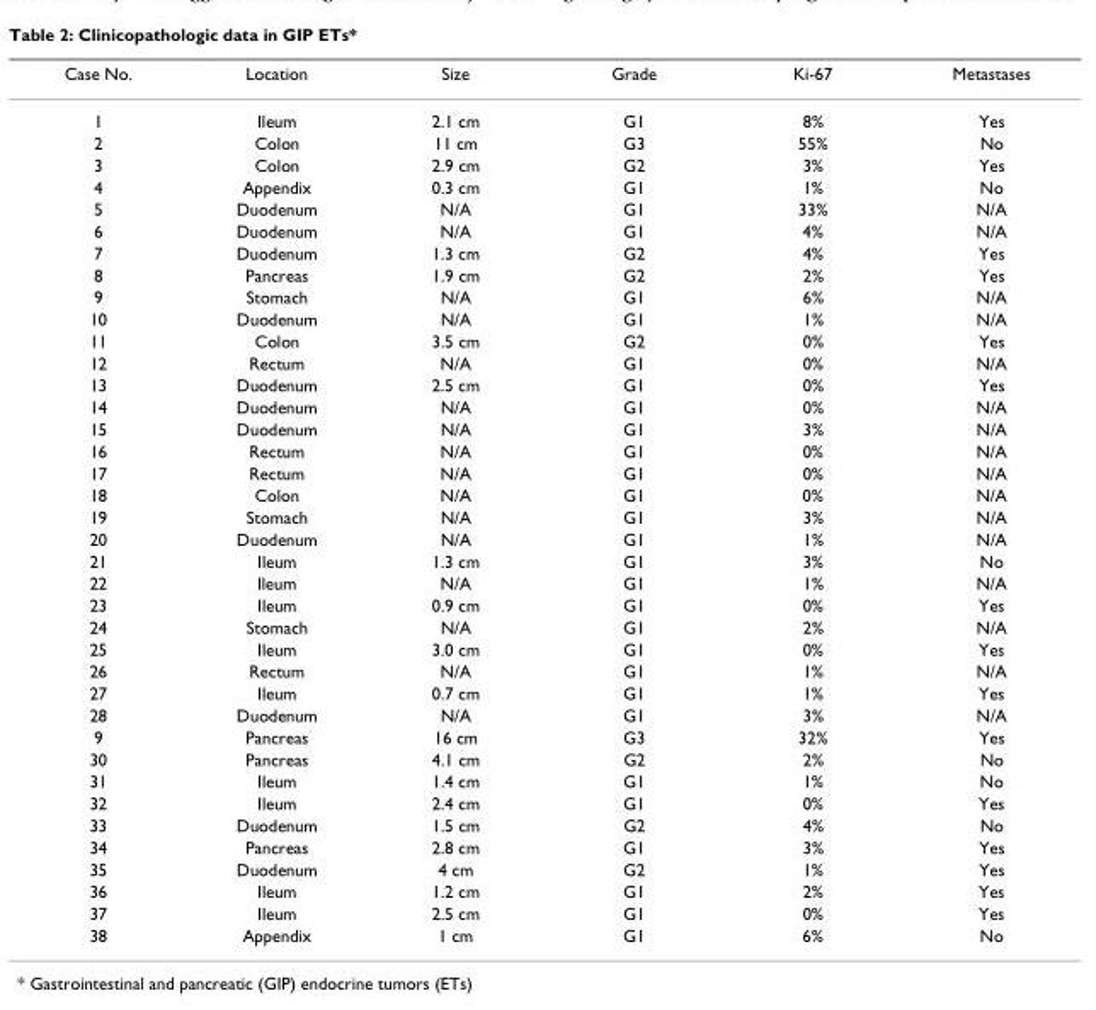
<table><thead><tr><td>Case No.</td><td>Location</td><td>Size</td><td>Grade</td><td>Ki-67</td><td>Metastases</td></tr></thead><tbody><tr><td>1</td><td>Ileum</td><td>2.1 cm</td><td>G1</td><td>8%</td><td>Yes</td></tr><tr><td>2</td><td>Colon</td><td>11 cm</td><td>G3</td><td>55%</td><td>No</td></tr><tr><td>3</td><td>Colon</td><td>2.9 cm</td><td>G2</td><td>3%</td><td>Yes</td></tr><tr><td>4</td><td>Appendix</td><td>0.3 cm</td><td>G1</td><td>1%</td><td>No</td></tr><tr><td>5</td><td>Duodenum</td><td>N/A</td><td>G1</td><td>33%</td><td>N/A</td></tr><tr><td>6</td><td>Duodenum</td><td>N/A</td><td>G1</td><td>4%</td><td>N/A</td></tr><tr><td>7</td><td>Duodenum</td><td>1.3 cm</td><td>G2</td><td>4%</td><td>Yes</td></tr><tr><td>8</td><td>Pancreas</td><td>1.9 cm</td><td>G2</td><td>2%</td><td>Yes</td></tr><tr><td>9</td><td>Stomach</td><td>N/A</td><td>G1</td><td>6%</td><td>N/A</td></tr><tr><td>10</td><td>Duodenum</td><td>N/A</td><td>G1</td><td>1%</td><td>N/A</td></tr><tr><td>11</td><td>Colon</td><td>3.5 cm</td><td>G2</td><td>0%</td><td>Yes</td></tr><tr><td>12</td><td>Rectum</td><td>N/A</td><td>G1</td><td>0%</td><td>N/A</td></tr><tr><td>13</td><td>Duodenum</td><td>2.5 cm</td><td>G1</td><td>0%</td><td>Yes</td></tr><tr><td>14</td><td>Duodenum</td><td>N/A</td><td>G1</td><td>0%</td><td>N/A</td></tr><tr><td>15</td><td>Duodenum</td><td>N/A</td><td>G1</td><td>3%</td><td>N/A</td></tr><tr><td>16</td><td>Rectum</td><td>N/A</td><td>G1</td><td>0%</td><td>N/A</td></tr><tr><td>17</td><td>Rectum</td><td>N/A</td><td>G1</td><td>0%</td><td>N/A</td></tr><tr><td>18</td><td>Colon</td><td>N/A</td><td>G1</td><td>0%</td><td>N/A</td></tr><tr><td>19</td><td>Stomach</td><td>N/A</td><td>G1</td><td>3%</td><td>N/A</td></tr><tr><td>20</td><td>Duodenum</td><td>N/A</td><td>G1</td><td>1%</td><td>N/A</td></tr><tr><td>21</td><td>Ileum</td><td>1.3 cm</td><td>G1</td><td>3%</td><td>No</td></tr><tr><td>22</td><td>Ileum</td><td>N/A</td><td>G1</td><td>1%</td><td>N/A</td></tr><tr><td>23</td><td>Ileum</td><td>0.9 cm</td><td>G1</td><td>0%</td><td>Yes</td></tr><tr><td>24</td><td>Stomach</td><td>N/A</td><td>G1</td><td>2%</td><td>N/A</td></tr><tr><td>25</td><td>Ileum</td><td>3.0 cm</td><td>G1</td><td>0%</td><td>Yes</td></tr><tr><td>26</td><td>Rectum</td><td>N/A</td><td>G1</td><td>1%</td><td>N/A</td></tr><tr><td>27</td><td>Ileum</td><td>0.7 cm</td><td>G1</td><td>1%</td><td>Yes</td></tr><tr><td>28</td><td>Duodenum</td><td>N/A</td><td>G1</td><td>3%</td><td>N/A</td></tr><tr><td>9</td><td>Pancreas</td><td>16 cm</td><td>G3</td><td>32%</td><td>Yes</td></tr><tr><td>30</td><td>Pancreas</td><td>4.1 cm</td><td>G2</td><td>2%</td><td>No</td></tr><tr><td>31</td><td>Ileum</td><td>1.4 cm</td><td>G1</td><td>1%</td><td>No</td></tr><tr><td>32</td><td>Ileum</td><td>2.4 cm</td><td>G1</td><td>0%</td><td>Yes</td></tr><tr><td>33</td><td>Duodenum</td><td>1.5 cm</td><td>G2</td><td>4%</td><td>No</td></tr><tr><td>34</td><td>Pancreas</td><td>2.8 cm</td><td>G1</td><td>3%</td><td>Yes</td></tr><tr><td>35</td><td>Duodenum</td><td>4 cm</td><td>G2</td><td>1%</td><td>Yes</td></tr><tr><td>36</td><td>Ileum</td><td>1.2 cm</td><td>G1</td><td>2%</td><td>Yes</td></tr><tr><td>37</td><td>Ileum</td><td>2.5 cm</td><td>G1</td><td>0%</td><td>Yes</td></tr><tr><td>38</td><td>Appendix</td><td>1 cm</td><td>G1</td><td>6%</td><td>No</td></tr></tbody></table>